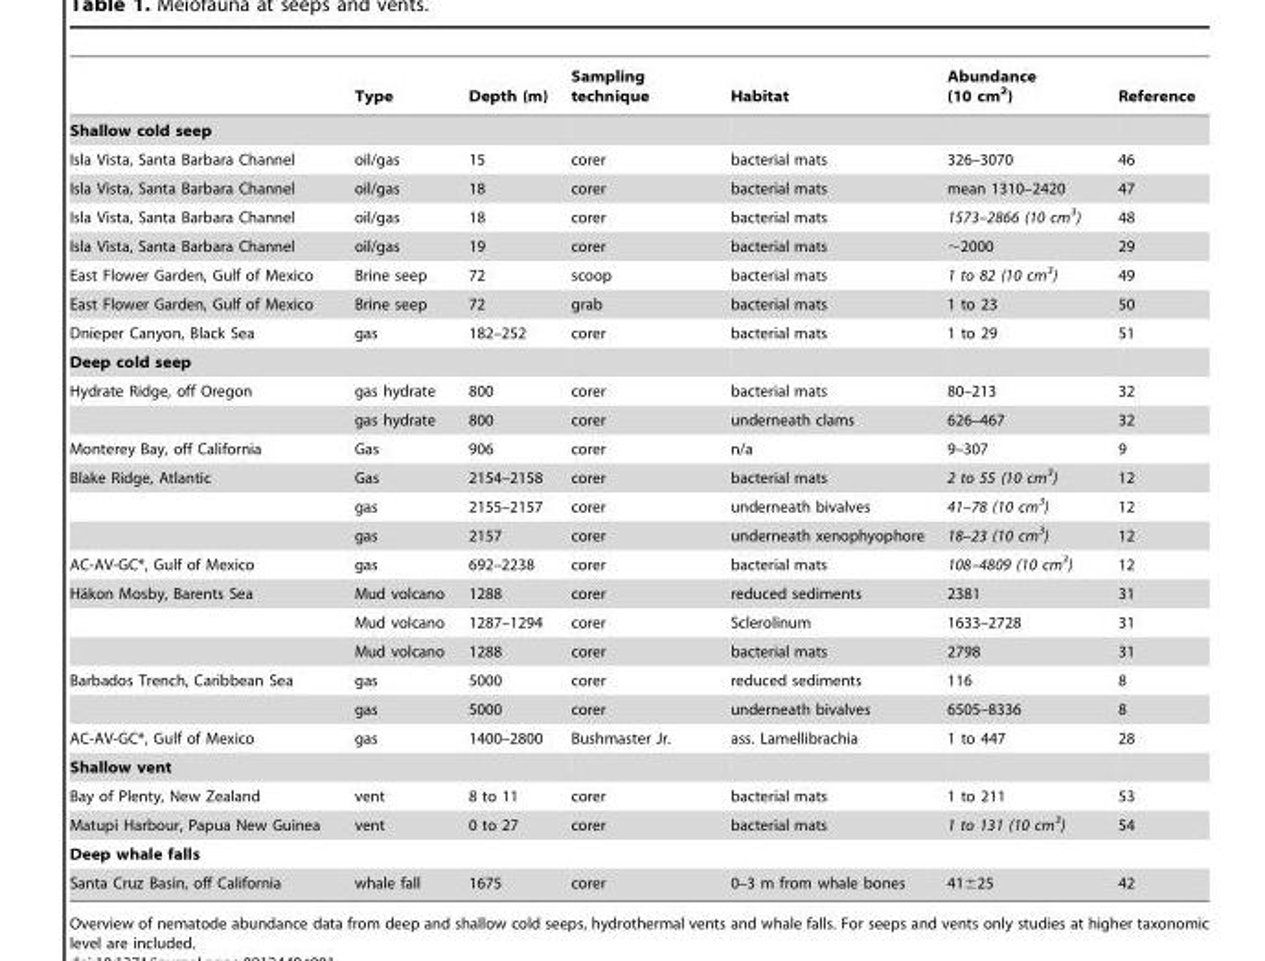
<table><thead><tr><td></td><td>Type</td><td>Depth (m)</td><td>Sampling technique</td><td>Habitat</td><td>Abundance (10 cm<sup>2</sup>)</td><td>Reference</td></tr></thead><tbody><tr><td colspan="7">Shallow cold seep</td></tr><tr><td>Isla Vista, Santa Barbara Channel</td><td>oil/gas</td><td>15</td><td>corer</td><td>bacterial mats</td><td>326–3070</td><td>46</td></tr><tr><td>Isla Vista, Santa Barbara Channel</td><td>oil/gas</td><td>18</td><td>corer</td><td>bacterial mats</td><td>mean 1310–2420</td><td>47</td></tr><tr><td>Isla Vista, Santa Barbara Channel</td><td>oil/gas</td><td>18</td><td>corer</td><td>bacterial mats</td><td>1573–2866 (10 cm<sup>3</sup>)</td><td>48</td></tr><tr><td>Isla Vista, Santa Barbara Channel</td><td>oil/gas</td><td>19</td><td>corer</td><td>bacterial mats</td><td>∼2000</td><td>29</td></tr><tr><td>East Flower Garden, Gulf of Mexico</td><td>Brine seep</td><td>72</td><td>scoop</td><td>bacterial mats</td><td>1 to 82 (10 cm<sup>3</sup>)</td><td>49</td></tr><tr><td>East Flower Garden, Gulf of Mexico</td><td>Brine seep</td><td>72</td><td>grab</td><td>bacterial mats</td><td>1 to 23</td><td>50</td></tr><tr><td>Dnieper Canyon, Black Sea</td><td>gas</td><td>182–252</td><td>corer</td><td>bacterial mats</td><td>1 to 29</td><td>51</td></tr><tr><td colspan="7">Deep cold seep</td></tr><tr><td rowspan="2">Hydrate Ridge, off Oregon</td><td>gas hydrate</td><td>800</td><td>corer</td><td>bacterial mats</td><td>80–213</td><td>32</td></tr><tr><td>gas hydrate</td><td>800</td><td>corer</td><td>underneath clams</td><td>626–467</td><td>32</td></tr><tr><td>Monterey Bay, off California</td><td>Gas</td><td>906</td><td>corer</td><td>n/a</td><td>9–307</td><td>9</td></tr><tr><td rowspan="3">Blake Ridge, Atlantic</td><td>Gas</td><td>2154–2158</td><td>corer</td><td>bacterial mats</td><td>2 to 55 (10 cm<sup>3</sup>)</td><td>12</td></tr><tr><td>gas</td><td>2155–2157</td><td>corer</td><td>underneath bivalves</td><td>41–78 (10 cm<sup>3</sup>)</td><td>12</td></tr><tr><td>gas</td><td>2157</td><td>corer</td><td>underneath xenophyophore</td><td>18–23 (10 cm<sup>3</sup>)</td><td>12</td></tr><tr><td>AC-AV-GC*, Gulf of Mexico</td><td>gas</td><td>692–2238</td><td>corer</td><td>bacterial mats</td><td>108–4809 (10 cm<sup>3</sup>)</td><td>12</td></tr><tr><td rowspan="3">Ha¨kon Mosby, Barents Sea</td><td>Mud volcano</td><td>1288</td><td>corer</td><td>reduced sediments</td><td>2381</td><td>31</td></tr><tr><td>Mud volcano</td><td>1287–1294</td><td>corer</td><td>Sclerolinum</td><td>1633–2728</td><td>31</td></tr><tr><td>Mud volcano</td><td>1288</td><td>corer</td><td>bacterial mats</td><td>2798</td><td>31</td></tr><tr><td rowspan="2">Barbados Trench, Caribbean Sea</td><td>gas</td><td>5000</td><td>corer</td><td>reduced sediments</td><td>116</td><td>8</td></tr><tr><td>gas</td><td>5000</td><td>corer</td><td>underneath bivalves</td><td>6505–8336</td><td>8</td></tr><tr><td>AC-AV-GC*, Gulf of Mexico</td><td>gas</td><td>1400–2800</td><td>Bushmaster Jr.</td><td>ass. Lamellibrachia</td><td>1 to 447</td><td>28</td></tr><tr><td colspan="7">Shallow vent</td></tr><tr><td>Bay of Plenty, New Zealand</td><td>vent</td><td>8 to 11</td><td>corer</td><td>bacterial mats</td><td>1 to 211</td><td>53</td></tr><tr><td>Matupi Harbour, Papua New Guinea</td><td>vent</td><td>0 to 27</td><td>corer</td><td>bacterial mats</td><td>1 to 131 (10 cm<sup>3</sup>)</td><td>54</td></tr><tr><td colspan="7">Deep whale falls</td></tr><tr><td>Santa Cruz Basin, off California</td><td>whale fall</td><td>1675</td><td>corer</td><td>0–3 m from whale bones</td><td>41±25</td><td>42</td></tr></tbody></table>